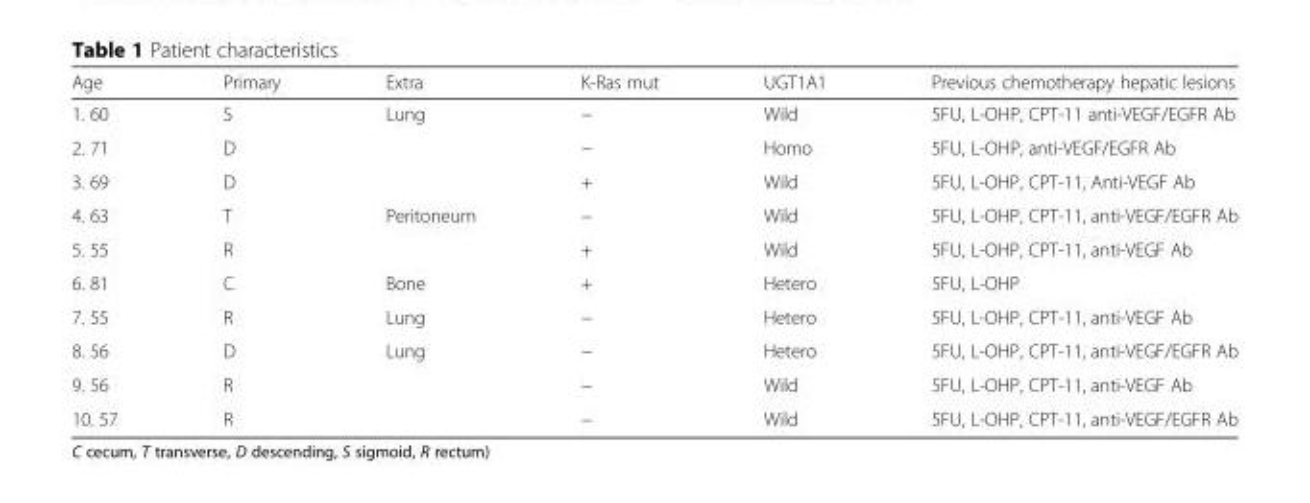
<table><thead><tr><td>Age</td><td>Primary</td><td>Extra</td><td>K-Ras mut</td><td>UGT1A1</td><td>Previous chemotherapy hepatic lesions</td></tr></thead><tbody><tr><td>1. 60</td><td>S</td><td>Lung</td><td>−</td><td>Wild</td><td>5FU, L-OHP, CPT-11 anti-VEGF/EGFR Ab</td></tr><tr><td>2. 71</td><td>D</td><td></td><td>−</td><td>Homo</td><td>5FU, L-OHP, anti-VEGF/EGFR Ab</td></tr><tr><td>3. 69</td><td>D</td><td></td><td>+</td><td>Wild</td><td>5FU, L-OHP, CPT-11, Anti-VEGF Ab</td></tr><tr><td>4. 63</td><td>T</td><td>Peritoneum</td><td>−</td><td>Wild</td><td>5FU, L-OHP, CPT-11, anti-VEGF/EGFR Ab</td></tr><tr><td>5. 55</td><td>R</td><td></td><td>+</td><td>Wild</td><td>5FU, L-OHP, CPT-11, anti-VEGF Ab</td></tr><tr><td>6. 81</td><td>C</td><td>Bone</td><td>+</td><td>Hetero</td><td>5FU, L-OHP</td></tr><tr><td>7. 55</td><td>R</td><td>Lung</td><td>−</td><td>Hetero</td><td>5FU, L-OHP, CPT-11, anti-VEGF Ab</td></tr><tr><td>8. 56</td><td>D</td><td>Lung</td><td>−</td><td>Hetero</td><td>5FU, L-OHP, CPT-11, anti-VEGF/EGFR Ab</td></tr><tr><td>9. 56</td><td>R</td><td></td><td>−</td><td>Wild</td><td>5FU, L-OHP, CPT-11, anti-VEGF Ab</td></tr><tr><td>10. 57</td><td>R</td><td></td><td>−</td><td>Wild</td><td>5FU, L-OHP, CPT-11, anti-VEGF/EGFR Ab</td></tr></tbody></table>